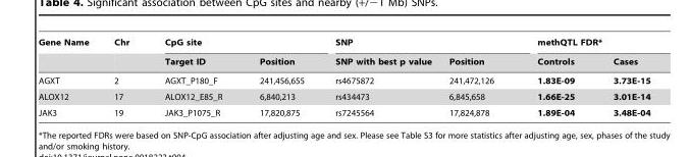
<table><thead><tr><td rowspan="2">Gene Name</td><td rowspan="2">Chr</td><td colspan="2">CpG site</td><td colspan="2">SNP</td><td colspan="2">methQTL FDR*</td></tr><tr><td>Target ID</td><td>Position</td><td>SNP with best p value</td><td>Position</td><td>Controls</td><td>Cases</td></tr></thead><tbody><tr><td>AGXT</td><td>2</td><td>AGXT_P180_F</td><td>241,456,655</td><td>rs4675872</td><td>241,472,126</td><td>1.83E-09</td><td>3.73E-15</td></tr><tr><td>ALOX12</td><td>17</td><td>ALOX12_E85_R</td><td>6,840,213</td><td>rs434473</td><td>6,845,658</td><td>1.66E-25</td><td>3.01E-14</td></tr><tr><td>JAK3</td><td>19</td><td>JAK3_P1075_R</td><td>17,820,875</td><td>rs7245564</td><td>17,824,878</td><td>1.89E-04</td><td>3.48E-04</td></tr></tbody></table>